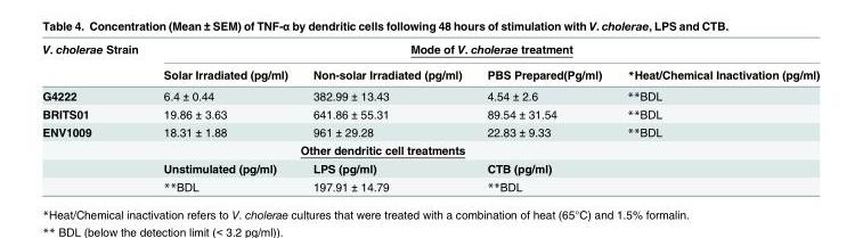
<table><thead><tr><td rowspan="2">V. cholerae Strain</td><td colspan="4">Mode of V. cholerae treatment</td></tr><tr><td>Solar Irradiated (pg/ml)</td><td>Non-solar Irradiated (pg/ml)</td><td>PBS Prepared(Pg/ml)</td><td>*Heat/Chemical Inactivation (pg/ml)</td></tr></thead><tbody><tr><td>G4222</td><td>6.4 ± 0.44</td><td>382.99 ± 13.43</td><td>4.54 ± 2.6</td><td>**BDL</td></tr><tr><td>BRITS01</td><td>19.86 ± 3.63</td><td>641.86 ± 55.31</td><td>89.54 ± 31.54</td><td>**BDL</td></tr><tr><td rowspan="4">ENV1009</td><td>18.31 ± 1.88</td><td>961 ± 29.28</td><td>22.83 ± 9.33</td><td>**BDL</td></tr><tr><td colspan="3">Other dendritic cell treatments</td><td></td></tr><tr><td>Unstimulated (pg/ml)</td><td>LPS (pg/ml)</td><td>CTB (pg/ml)</td><td></td></tr><tr><td>**BDL</td><td>197.91 ± 14.79</td><td>**BDL</td><td></td></tr></tbody></table>